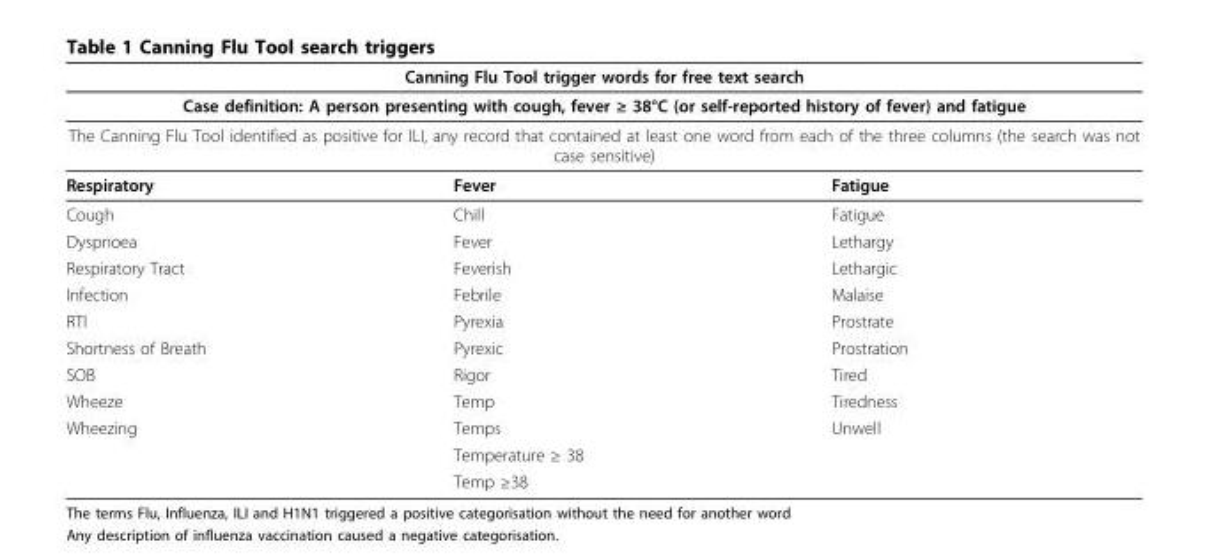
<table><thead><tr><td rowspan="3" colspan="3">Canning Flu Tool trigger words for free text search Case definition: A person presenting with cough, fever ≥ 38°C (or self-reported history of fever) and fatigue The Canning Flu Tool identified as positive for ILI, any record that contained at least one word from each of the three columns (the search was not case sensitive)</td></tr><tr></tr><tr></tr><tr><td>Respiratory</td><td>Fever</td><td>Fatigue</td></tr></thead><tbody><tr><td>Cough</td><td>Chill</td><td>Fatigue</td></tr><tr><td>Dyspnoea</td><td>Fever</td><td>Lethargy</td></tr><tr><td>Respiratory Tract</td><td>Feverish</td><td>Lethargic</td></tr><tr><td>Infection</td><td>Febrile</td><td>Malaise</td></tr><tr><td>RTI</td><td>Pyrexia</td><td>Prostrate</td></tr><tr><td>Shortness of Breath</td><td>Pyrexic</td><td>Prostration</td></tr><tr><td>SOB</td><td>Rigor</td><td>Tired</td></tr><tr><td>Wheeze</td><td>Temp</td><td>Tiredness</td></tr><tr><td rowspan="3">Wheezing</td><td>Temps</td><td>Unwell</td></tr><tr><td>Temperature ≥ 38</td><td></td></tr><tr><td>Temp ≥38</td><td></td></tr></tbody></table>